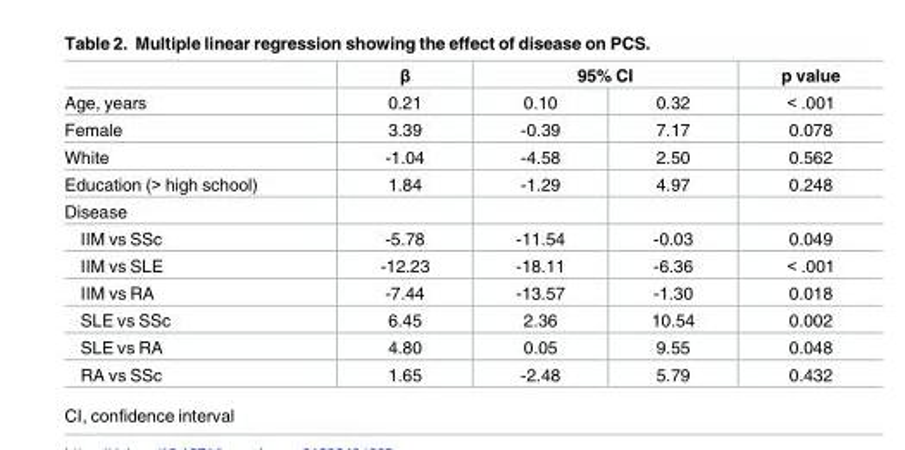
<table><thead><tr><td rowspan="2">Age, years</td><td rowspan="2">β 0.21</td><td colspan="2">95% CI</td><td rowspan="2">p value &lt; .001</td></tr><tr><td>0.10</td><td>0.32</td></tr></thead><tbody><tr><td>Female</td><td>3.39</td><td>-0.39</td><td>7.17</td><td>0.078</td></tr><tr><td>White</td><td>-1.04</td><td>-4.58</td><td>2.50</td><td>0.562</td></tr><tr><td>Education (&gt; high school)</td><td>1.84</td><td>-1.29</td><td>4.97</td><td>0.248</td></tr><tr><td colspan="5">Disease</td></tr><tr><td>IIM vs SSc</td><td>-5.78</td><td>-11.54</td><td>-0.03</td><td>0.049</td></tr><tr><td>IIM vs SLE</td><td>-12.23</td><td>-18.11</td><td>-6.36</td><td>&lt; .001</td></tr><tr><td>IIM vs RA</td><td>-7.44</td><td>-13.57</td><td>-1.30</td><td>0.018</td></tr><tr><td>SLE vs SSc</td><td>6.45</td><td>2.36</td><td>10.54</td><td>0.002</td></tr><tr><td>SLE vs RA</td><td>4.80</td><td>0.05</td><td>9.55</td><td>0.048</td></tr><tr><td>RA vs SSc</td><td>1.65</td><td>-2.48</td><td>5.79</td><td>0.432</td></tr></tbody></table>